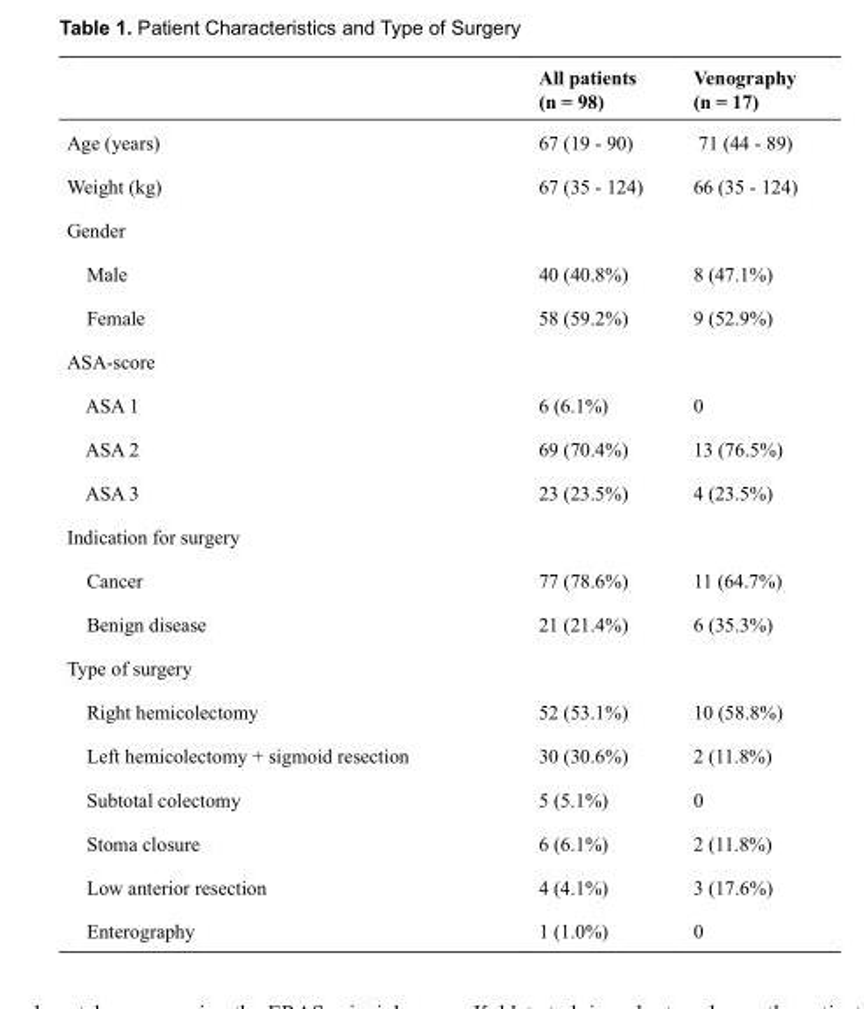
<table><thead><tr><td></td><td>All patients (n = 98)</td><td>Venography (n = 17)</td></tr></thead><tbody><tr><td>Age (years)</td><td>67 (19 - 90)</td><td>71 (44 - 89)</td></tr><tr><td>Weight (kg)</td><td>67 (35 - 124)</td><td>66 (35 - 124)</td></tr><tr><td colspan="3">Gender</td></tr><tr><td>Male</td><td>40 (40.8%)</td><td>8 (47.1%)</td></tr><tr><td>Female</td><td>58 (59.2%)</td><td>9 (52.9%)</td></tr><tr><td colspan="3">ASA-score</td></tr><tr><td>ASA 1</td><td>6 (6.1%)</td><td>0</td></tr><tr><td>ASA 2</td><td>69 (70.4%)</td><td>13 (76.5%)</td></tr><tr><td>ASA 3</td><td>23 (23.5%)</td><td>4 (23.5%)</td></tr><tr><td colspan="3">Indication for surgery</td></tr><tr><td>Cancer</td><td>77 (78.6%)</td><td>11 (64.7%)</td></tr><tr><td>Benign disease</td><td>21 (21.4%)</td><td>6 (35.3%)</td></tr><tr><td colspan="3">Type of surgery</td></tr><tr><td>Right hemicolectomy</td><td>52 (53.1%)</td><td>10 (58.8%)</td></tr><tr><td>Left hemicolectomy + sigmoid resection</td><td>30 (30.6%)</td><td>2 (11.8%)</td></tr><tr><td>Subtotal colectomy</td><td>5 (5.1%)</td><td>0</td></tr><tr><td>Stoma closure</td><td>6 (6.1%)</td><td>2 (11.8%)</td></tr><tr><td>Low anterior resection</td><td>4 (4.1%)</td><td>3 (17.6%)</td></tr><tr><td>Enterography</td><td>1 (1.0%)</td><td>0</td></tr></tbody></table>